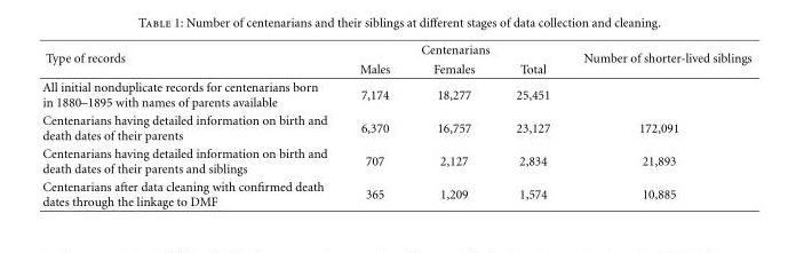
<table><thead><tr><td rowspan="2">Type of records</td><td colspan="3">Centenarians</td><td rowspan="2">Number of shorter-lived siblings</td></tr><tr><td>Males</td><td>Females</td><td>Total</td></tr></thead><tbody><tr><td>All initial nonduplicate records for centenarians born in 1880–1895 with names of parents available</td><td>7,174</td><td>18,277</td><td>25,451</td><td></td></tr><tr><td>Centenarians having detailed information on birth and death dates of their parents</td><td>6,370</td><td>16,757</td><td>23,127</td><td>172,091</td></tr><tr><td>Centenarians having detailed information on birth and death dates of their parents and siblings</td><td>707</td><td>2,127</td><td>2,834</td><td>21,893</td></tr><tr><td>Centenarians after data cleaning with confirmed death dates through the linkage to DMF</td><td>365</td><td>1,209</td><td>1,574</td><td>10,885</td></tr></tbody></table>